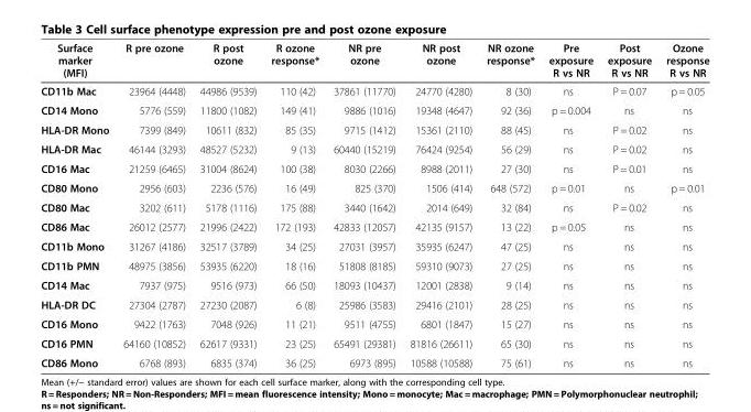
<table><thead><tr><td>Surface marker (MFI)</td><td>R pre ozone</td><td>R post ozone</td><td>R ozone response*</td><td>NR pre ozone</td><td>NR post ozone</td><td>NR ozone response*</td><td>Pre exposure R vs NR</td><td>Post exposure R vs NR</td><td>Ozone response R vs NR</td></tr></thead><tbody><tr><td>CD11b Mac</td><td>23964 (4448)</td><td>44986 (9539)</td><td>110 (42)</td><td>37861 (11770)</td><td>24770 (4280)</td><td>8 (30)</td><td>ns</td><td>P = 0.07</td><td>p = 0.05</td></tr><tr><td>CD14 Mono</td><td>5776 (559)</td><td>11800 (1082)</td><td>149 (41)</td><td>9886 (1016)</td><td>19348 (4647)</td><td>92 (36)</td><td>p = 0.004</td><td>ns</td><td>ns</td></tr><tr><td>HLA-DR Mono</td><td>7399 (849)</td><td>10611 (832)</td><td>85 (35)</td><td>9715 (1412)</td><td>15361 (2110)</td><td>88 (45)</td><td>ns</td><td>P = 0.02</td><td>ns</td></tr><tr><td>HLA-DR Mac</td><td>46144 (3293)</td><td>48527 (5232)</td><td>9 (13)</td><td>60440 (15219)</td><td>76424 (9254)</td><td>56 (29)</td><td>ns</td><td>P = 0.02</td><td>ns</td></tr><tr><td>CD16 Mac</td><td>21259 (6465)</td><td>31004 (8624)</td><td>100 (38)</td><td>8030 (2266)</td><td>8988 (2011)</td><td>27 (30)</td><td>ns</td><td>P = 0.01</td><td>ns</td></tr><tr><td>CD80 Mono</td><td>2956 (603)</td><td>2236 (576)</td><td>16 (49)</td><td>825 (370)</td><td>1506 (414)</td><td>648 (572)</td><td>p = 0.01</td><td>ns</td><td>p = 0.01</td></tr><tr><td>CD80 Mac</td><td>3202 (611)</td><td>5178 (1116)</td><td>175 (88)</td><td>3440 (1642)</td><td>2014 (649)</td><td>32 (84)</td><td>ns</td><td>P = 0.02</td><td>ns</td></tr><tr><td>CD86 Mac</td><td>26012 (2577)</td><td>21996 (2422)</td><td>172 (193)</td><td>42833 (12057)</td><td>42135 (9157)</td><td>13 (22)</td><td>p = 0.05</td><td>ns</td><td>ns</td></tr><tr><td>CD11b Mono</td><td>31267 (4186)</td><td>32517 (3789)</td><td>34 (25)</td><td>27031 (3957)</td><td>35935 (6247)</td><td>47 (25)</td><td>ns</td><td>ns</td><td>ns</td></tr><tr><td>CD11b PMN</td><td>48975 (3856)</td><td>53935 (6220)</td><td>18 (16)</td><td>51808 (8185)</td><td>59310 (9073)</td><td>27 (25)</td><td>ns</td><td>ns</td><td>ns</td></tr><tr><td>CD14 Mac</td><td>7937 (975)</td><td>9516 (973)</td><td>66 (50)</td><td>18093 (10437)</td><td>12001 (2838)</td><td>9 (14)</td><td>ns</td><td>ns</td><td>ns</td></tr><tr><td>HLA-DR DC</td><td>27304 (2787)</td><td>27230 (2087)</td><td>6 (8)</td><td>25986 (3583)</td><td>29416 (2101)</td><td>28 (25)</td><td>ns</td><td>ns</td><td>ns</td></tr><tr><td>CD16 Mono</td><td>9422 (1763)</td><td>7048 (926)</td><td>11 (21)</td><td>9511 (4755)</td><td>6801 (1847)</td><td>15 (27)</td><td>ns</td><td>ns</td><td>ns</td></tr><tr><td>CD16 PMN</td><td>64160 (10852)</td><td>62617 (9331)</td><td>23 (25)</td><td>65491 (29381)</td><td>81816 (26611)</td><td>65 (30)</td><td>ns</td><td>ns</td><td>ns</td></tr><tr><td>CD86 Mono</td><td>6768 (893)</td><td>6835 (374)</td><td>36 (25)</td><td>6973 (895)</td><td>10588 (10588)</td><td>75 (61)</td><td>ns</td><td>ns</td><td>ns</td></tr></tbody></table>